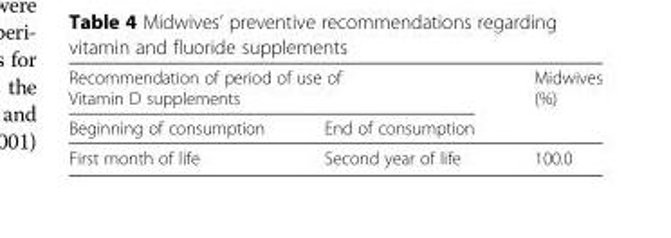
<table><thead><tr><td colspan="2">Recommendation of period of use of Vitamin D supplements</td><td rowspan="2">Midwives (%)</td></tr><tr><td>Beginning of consumption</td><td>End of consumption</td></tr></thead><tbody><tr><td>First month of life</td><td>Second year of life</td><td>100.0</td></tr></tbody></table>